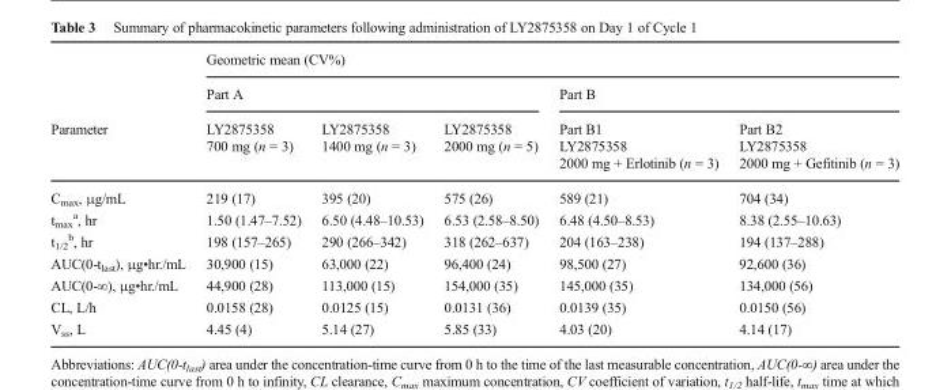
<table><thead><tr><td rowspan="3">Parameter</td><td colspan="5">Geometric mean (CV%)</td></tr><tr><td colspan="3">Part A</td><td colspan="2">Part B</td></tr><tr><td>LY2875358 700 mg (n = 3)</td><td>LY2875358 1400 mg (n = 3)</td><td>LY2875358 2000 mg (n = 5)</td><td>Part B1 LY2875358 2000 mg + Erlotinib (n = 3)</td><td>Part B2 LY2875358 2000 mg + Gefitinib (n = 3)</td></tr></thead><tbody><tr><td>C<sub>max</sub>, μg/mL</td><td>219 (17)</td><td>395 (20)</td><td>575 (26)</td><td>589 (21)</td><td>704 (34)</td></tr><tr><td>t<sub>max</sub> <sup>a</sup>, hr</td><td>1.50 (1.47–7.52)</td><td>6.50 (4.48–10.53)</td><td>6.53 (2.58–8.50)</td><td>6.48 (4.50–8.53)</td><td>8.38 (2.55–10.63)</td></tr><tr><td>t<sub>1/2</sub> <sup>b</sup>, hr</td><td>198 (157–265)</td><td>290 (266–342)</td><td>318 (262–637)</td><td>204 (163–238)</td><td>194 (137–288)</td></tr><tr><td>AUC(0-t<sub>last</sub>), μg•hr./mL</td><td>30,900 (15)</td><td>63,000 (22)</td><td>96,400 (24)</td><td>98,500 (27)</td><td>92,600 (36)</td></tr><tr><td>AUC(0-∞), μg•hr./mL</td><td>44,900 (28)</td><td>113,000 (15)</td><td>154,000 (35)</td><td>145,000 (35)</td><td>134,000 (56)</td></tr><tr><td>CL, L/h</td><td>0.0158 (28)</td><td>0.0125 (15)</td><td>0.0131 (36)</td><td>0.0139 (35)</td><td>0.0150 (56)</td></tr><tr><td>V<sub>ss</sub>, L</td><td>4.45 (4)</td><td>5.14 (27)</td><td>5.85 (33)</td><td>4.03 (20)</td><td>4.14 (17)</td></tr></tbody></table>